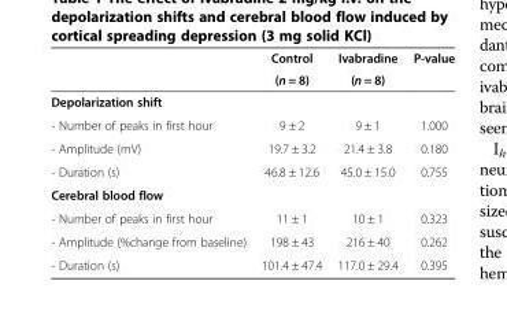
<table><thead><tr><td rowspan="2"></td><td rowspan="2">Control (n = 8)</td><td rowspan="2">Ivabradine (n = 8)</td><td rowspan="2">P-value</td></tr><tr></tr></thead><tbody><tr><td colspan="4">Depolarization shift</td></tr><tr><td>- Number of peaks in first hour</td><td>9 ± 2</td><td>9 ± 1</td><td>1.000</td></tr><tr><td>- Amplitude (mV)</td><td>19.7 ± 3.2</td><td>21.4 ± 3.8</td><td>0.180</td></tr><tr><td>- Duration (s)</td><td>46.8 ± 12.6</td><td>45.0 ± 15.0</td><td>0.755</td></tr><tr><td colspan="4">Cerebral blood flow</td></tr><tr><td>- Number of peaks in first hour</td><td>11 ± 1</td><td>10 ± 1</td><td>0.323</td></tr><tr><td>- Amplitude (%change from baseline)</td><td>198 ± 43</td><td>216 ± 40</td><td>0.262</td></tr><tr><td>- Duration (s)</td><td>101.4 ± 47.4</td><td>117.0 ± 29.4</td><td>0.395</td></tr></tbody></table>